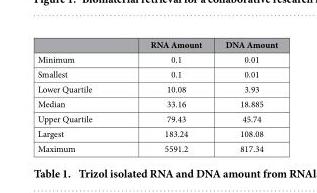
<table><thead><tr><td></td><td>RNA Amount</td><td>DNA Amount</td></tr></thead><tbody><tr><td>Minimum</td><td>0.1</td><td>0.01</td></tr><tr><td>Smallest</td><td>0.1</td><td>0.01</td></tr><tr><td>Lower Quartile</td><td>10.08</td><td>3.93</td></tr><tr><td>Median</td><td>33.16</td><td>18.885</td></tr><tr><td>Upper Quartile</td><td>79.43</td><td>45.74</td></tr><tr><td>Largest</td><td>183.24</td><td>108.08</td></tr><tr><td>Maximum</td><td>5591.2</td><td>817.34</td></tr></tbody></table>